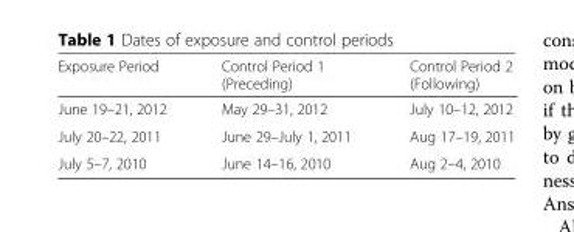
<table><thead><tr><td>Exposure Period</td><td>Control Period 1 (Preceding)</td><td>Control Period 2 (Following)</td></tr></thead><tbody><tr><td>June 19–21, 2012</td><td>May 29–31, 2012</td><td>July 10–12, 2012</td></tr><tr><td>July 20–22, 2011</td><td>June 29–July 1, 2011</td><td>Aug 17–19, 2011</td></tr><tr><td>July 5–7, 2010</td><td>June 14–16, 2010</td><td>Aug 2–4, 2010</td></tr></tbody></table>